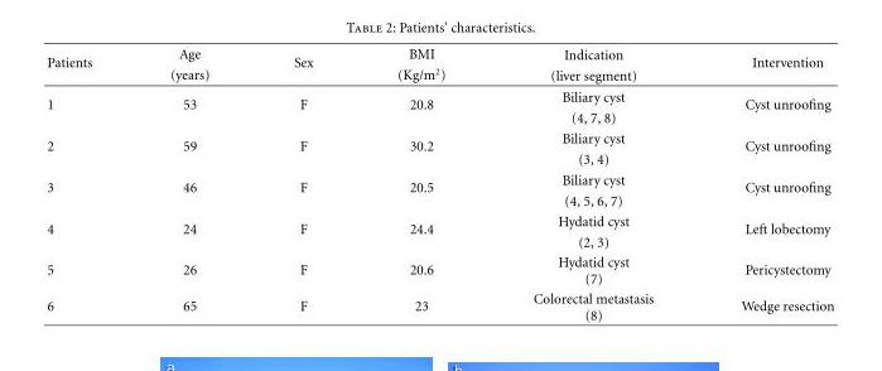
<table><thead><tr><td rowspan="2">Patients</td><td rowspan="2">Age (years)</td><td rowspan="2">Sex</td><td rowspan="2">BMI (Kg/m<sup>2</sup>)</td><td rowspan="2">Indication (liver segment)</td><td rowspan="2">Intervention</td></tr><tr></tr></thead><tbody><tr><td rowspan="2">1</td><td rowspan="2">53</td><td rowspan="2">F</td><td rowspan="2">20.8</td><td>Biliary cyst</td><td rowspan="2">Cyst unroofing</td></tr><tr><td>(4, 7, 8)</td></tr><tr><td rowspan="2">2</td><td rowspan="2">59</td><td rowspan="2">F</td><td rowspan="2">30.2</td><td>Biliary cyst</td><td rowspan="2">Cyst unroofing</td></tr><tr><td>(3, 4)</td></tr><tr><td rowspan="2">3</td><td rowspan="2">46</td><td rowspan="2">F</td><td rowspan="2">20.5</td><td>Biliary cyst</td><td rowspan="2">Cyst unroofing</td></tr><tr><td>(4, 5, 6, 7)</td></tr><tr><td rowspan="2">4</td><td rowspan="2">24</td><td rowspan="2">F</td><td rowspan="2">24.4</td><td>Hydatid cyst</td><td rowspan="2">Left lobectomy</td></tr><tr><td>(2, 3)</td></tr><tr><td>5</td><td>26</td><td>F</td><td>20.6</td><td>Hydatid cyst (7)</td><td>Pericystectomy</td></tr><tr><td>6</td><td>65</td><td>F</td><td>23</td><td>Colorectal metastasis (8)</td><td>Wedge resection</td></tr></tbody></table>